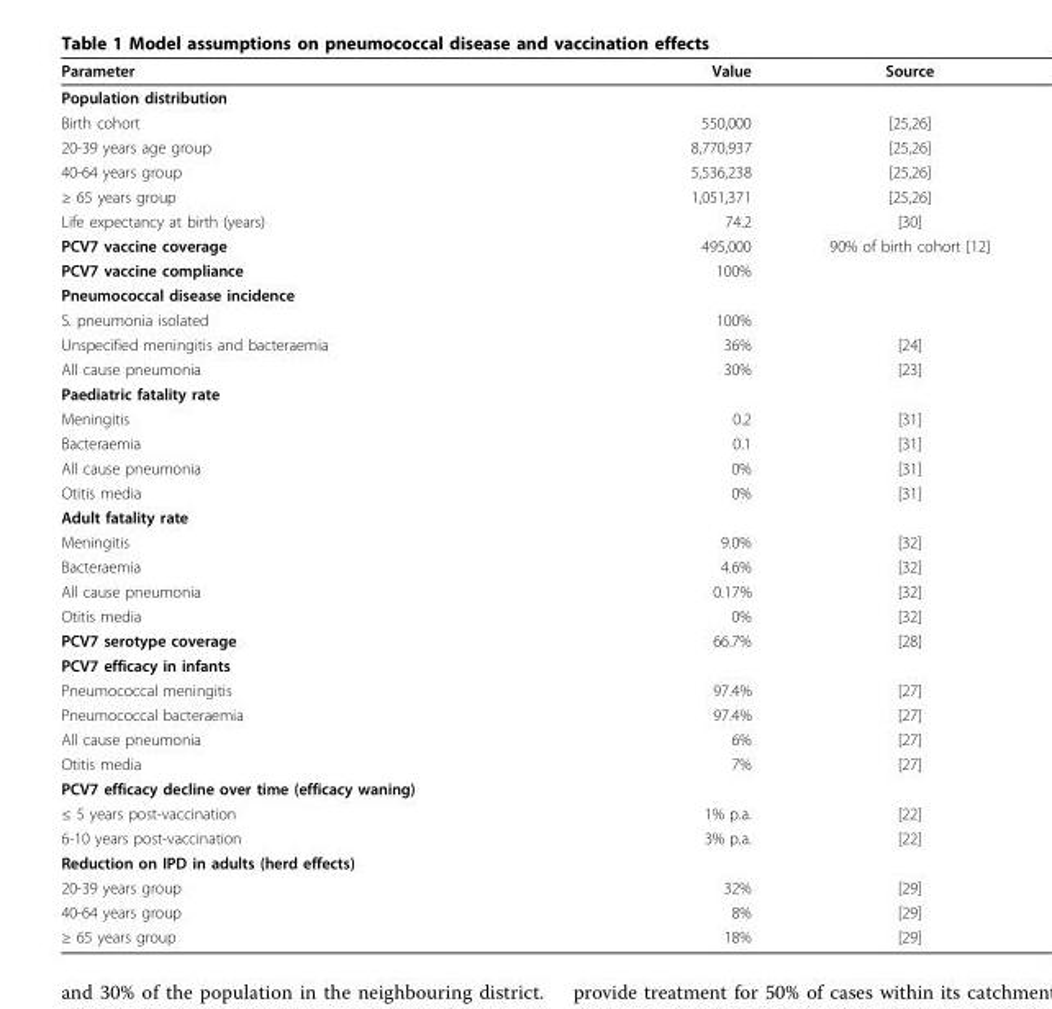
<table><thead><tr><td>Parameter</td><td>Value</td><td>Source</td></tr></thead><tbody><tr><td colspan="3">Population distribution</td></tr><tr><td>Birth cohort</td><td>550,000</td><td>[25,26]</td></tr><tr><td>20-39 years age group</td><td>8,770,937</td><td>[25,26]</td></tr><tr><td>40-64 years group</td><td>5,536,238</td><td>[25,26]</td></tr><tr><td>≥ 65 years group</td><td>1,051,371</td><td>[25,26]</td></tr><tr><td>Life expectancy at birth (years)</td><td>74.2</td><td>[30]</td></tr><tr><td>PCV7 vaccine coverage</td><td>495,000</td><td>90% of birth cohort [12]</td></tr><tr><td>PCV7 vaccine compliance</td><td>100%</td><td></td></tr><tr><td colspan="3">Pneumococcal disease incidence</td></tr><tr><td>S. pneumonia isolated</td><td>100%</td><td></td></tr><tr><td>Unspecified meningitis and bacteraemia</td><td>36%</td><td>[24]</td></tr><tr><td>All cause pneumonia</td><td>30%</td><td>[23]</td></tr><tr><td colspan="3">Paediatric fatality rate</td></tr><tr><td>Meningitis</td><td>0.2</td><td>[31]</td></tr><tr><td>Bacteraemia</td><td>0.1</td><td>[31]</td></tr><tr><td>All cause pneumonia</td><td>0%</td><td>[31]</td></tr><tr><td>Otitis media</td><td>0%</td><td>[31]</td></tr><tr><td colspan="3">Adult fatality rate</td></tr><tr><td>Meningitis</td><td>9.0%</td><td>[32]</td></tr><tr><td>Bacteraemia</td><td>4.6%</td><td>[32]</td></tr><tr><td>All cause pneumonia</td><td>0.17%</td><td>[32]</td></tr><tr><td>Otitis media</td><td>0%</td><td>[32]</td></tr><tr><td>PCV7 serotype coverage</td><td>66.7%</td><td>[28]</td></tr><tr><td colspan="3">PCV7 efficacy in infants</td></tr><tr><td>Pneumococcal meningitis</td><td>97.4%</td><td>[27]</td></tr><tr><td>Pneumococcal bacteraemia</td><td>97.4%</td><td>[27]</td></tr><tr><td>All cause pneumonia</td><td>6%</td><td>[27]</td></tr><tr><td>Otitis media</td><td>7%</td><td>[27]</td></tr><tr><td colspan="3">PCV7 efficacy decline over time (efficacy waning)</td></tr><tr><td>≤ 5 years post-vaccination</td><td>1% p.a.</td><td>[22]</td></tr><tr><td>6-10 years post-vaccination</td><td>3% p.a.</td><td>[22]</td></tr><tr><td colspan="3">Reduction on IPD in adults (herd effects)</td></tr><tr><td>20-39 years group</td><td>32%</td><td>[29]</td></tr><tr><td>40-64 years group</td><td>8%</td><td>[29]</td></tr><tr><td>≥ 65 years group</td><td>18%</td><td>[29]</td></tr></tbody></table>